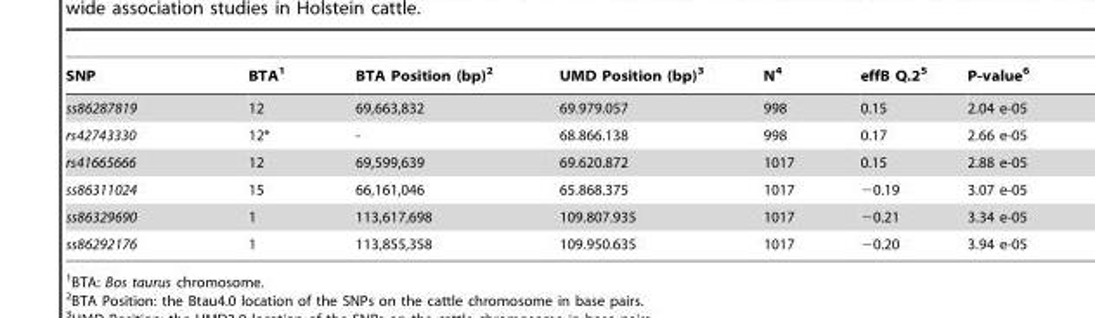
<table><thead><tr><td>SNP</td><td>BTA<sup>1</sup></td><td>BTA Position (bp)<sup>2</sup></td><td>UMD Position (bp)<sup>3</sup></td><td>N<sup>4</sup></td><td>effB Q.2<sup>5</sup></td><td>P-value<sup>6</sup></td></tr></thead><tbody><tr><td>ss86287819</td><td>12</td><td>69,663,832</td><td>69.979.057</td><td>998</td><td>0.15</td><td>2.04 e-05</td></tr><tr><td>rs42743330</td><td>12*</td><td>-</td><td>68.866.138</td><td>998</td><td>0.17</td><td>2.66 e-05</td></tr><tr><td>rs41665666</td><td>12</td><td>69,599,639</td><td>69.620.872</td><td>1017</td><td>0.15</td><td>2.88 e-05</td></tr><tr><td>ss86311024</td><td>15</td><td>66,161,046</td><td>65.868.375</td><td>1017</td><td>−0.19</td><td>3.07 e-05</td></tr><tr><td>ss86329690</td><td>1</td><td>113,617,698</td><td>109.807.935</td><td>1017</td><td>−0.21</td><td>3.34 e-05</td></tr><tr><td>ss86292176</td><td>1</td><td>113,855,358</td><td>109.950.635</td><td>1017</td><td>−0.20</td><td>3.94 e-05</td></tr></tbody></table>